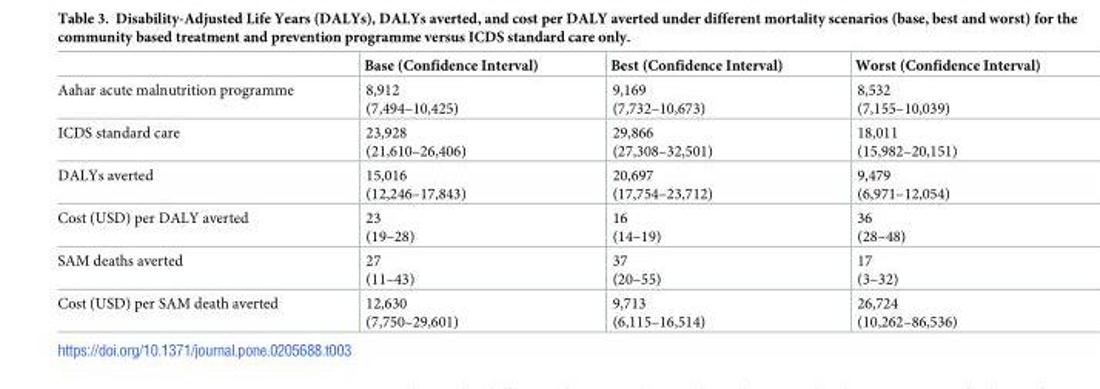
<table><thead><tr><td></td><td>Base (Confidence Interval)</td><td>Best (Confidence Interval)</td><td>Worst (Confidence Interval)</td></tr></thead><tbody><tr><td>Aahar acute malnutrition programme</td><td>8,912 (7,494–10,425)</td><td>9,169 (7,732–10,673)</td><td>8,532 (7,155–10,039)</td></tr><tr><td>ICDS standard care</td><td>23,928 (21,610–26,406)</td><td>29,866 (27,308–32,501)</td><td>18,011 (15,982–20,151)</td></tr><tr><td>DALYs averted</td><td>15,016 (12,246–17,843)</td><td>20,697 (17,754–23,712)</td><td>9,479 (6,971–12,054)</td></tr><tr><td>Cost (USD) per DALY averted</td><td>23 (19–28)</td><td>16 (14–19)</td><td>36 (28–48)</td></tr><tr><td>SAM deaths averted</td><td>27 (11–43)</td><td>37 (20–55)</td><td>17 (3–32)</td></tr><tr><td>Cost (USD) per SAM death averted</td><td>12,630 (7,750–29,601)</td><td>9,713 (6,115–16,514)</td><td>26,724 (10,262–86,536)</td></tr></tbody></table>